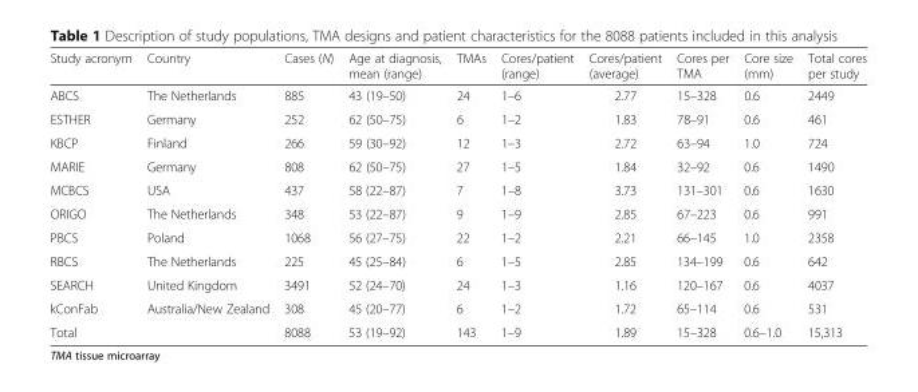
<table><thead><tr><td>Study acronym</td><td>Country</td><td>Cases (N)</td><td>Age at diagnosis, mean (range)</td><td>TMAs</td><td>Cores/patient (range)</td><td>Cores/patient (average)</td><td>Cores per TMA</td><td>Core size (mm)</td><td>Total cores per study</td></tr></thead><tbody><tr><td>ABCS</td><td>The Netherlands</td><td>885</td><td>43 (19–50)</td><td>24</td><td>1–6</td><td>2.77</td><td>15–328</td><td>0.6</td><td>2449</td></tr><tr><td>ESTHER</td><td>Germany</td><td>252</td><td>62 (50–75)</td><td>6</td><td>1–2</td><td>1.83</td><td>78–91</td><td>0.6</td><td>461</td></tr><tr><td>KBCP</td><td>Finland</td><td>266</td><td>59 (30–92)</td><td>12</td><td>1–3</td><td>2.72</td><td>63–94</td><td>1.0</td><td>724</td></tr><tr><td>MARIE</td><td>Germany</td><td>808</td><td>62 (50–75)</td><td>27</td><td>1–5</td><td>1.84</td><td>32–92</td><td>0.6</td><td>1490</td></tr><tr><td>MCBCS</td><td>USA</td><td>437</td><td>58 (22–87)</td><td>7</td><td>1–8</td><td>3.73</td><td>131–301</td><td>0.6</td><td>1630</td></tr><tr><td>ORIGO</td><td>The Netherlands</td><td>348</td><td>53 (22–87)</td><td>9</td><td>1–9</td><td>2.85</td><td>67–223</td><td>0.6</td><td>991</td></tr><tr><td>PBCS</td><td>Poland</td><td>1068</td><td>56 (27–75)</td><td>22</td><td>1–2</td><td>2.21</td><td>66–145</td><td>1.0</td><td>2358</td></tr><tr><td>RBCS</td><td>The Netherlands</td><td>225</td><td>45 (25–84)</td><td>6</td><td>1–5</td><td>2.85</td><td>134–199</td><td>0.6</td><td>642</td></tr><tr><td>SEARCH</td><td>United Kingdom</td><td>3491</td><td>52 (24–70)</td><td>24</td><td>1–3</td><td>1.16</td><td>120–167</td><td>0.6</td><td>4037</td></tr><tr><td>kConFab</td><td>Australia/New Zealand</td><td>308</td><td>45 (20–77)</td><td>6</td><td>1–2</td><td>1.72</td><td>65–114</td><td>0.6</td><td>531</td></tr><tr><td>Total</td><td></td><td>8088</td><td>53 (19–92)</td><td>143</td><td>1–9</td><td>1.89</td><td>15–328</td><td>0.6–1.0</td><td>15,313</td></tr></tbody></table>